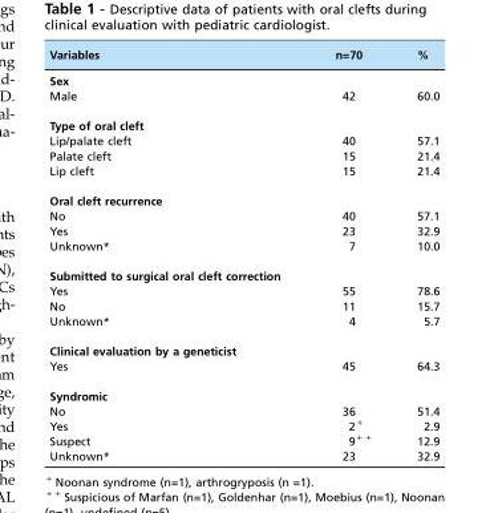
<table><thead><tr><td>Variables</td><td>n=70</td><td>%</td></tr></thead><tbody><tr><td colspan="3">Sex</td></tr><tr><td>Male</td><td>42</td><td>60.0</td></tr><tr><td colspan="3">Type of oral cleft</td></tr><tr><td>Lip/palate cleft</td><td>40</td><td>57.1</td></tr><tr><td>Palate cleft</td><td>15</td><td>21.4</td></tr><tr><td>Lip cleft</td><td>15</td><td>21.4</td></tr><tr><td colspan="3">Oral cleft recurrence</td></tr><tr><td>No</td><td>40</td><td>57.1</td></tr><tr><td>Yes</td><td>23</td><td>32.9</td></tr><tr><td>Unknown*</td><td>7</td><td>10.0</td></tr><tr><td colspan="3">Submitted to surgical oral cleft correction</td></tr><tr><td>Yes</td><td>55</td><td>78.6</td></tr><tr><td>No</td><td>11</td><td>15.7</td></tr><tr><td>Unknown*</td><td>4</td><td>5.7</td></tr><tr><td colspan="3">Clinical evaluation by a geneticist</td></tr><tr><td>Yes</td><td>45</td><td>64.3</td></tr><tr><td colspan="3">Syndromic</td></tr><tr><td>No</td><td>36</td><td>51.4</td></tr><tr><td>Yes</td><td>2+</td><td>2.9</td></tr><tr><td>Suspect</td><td>9++</td><td>12.9</td></tr><tr><td>Unknown*</td><td>23</td><td>32.9</td></tr></tbody></table>